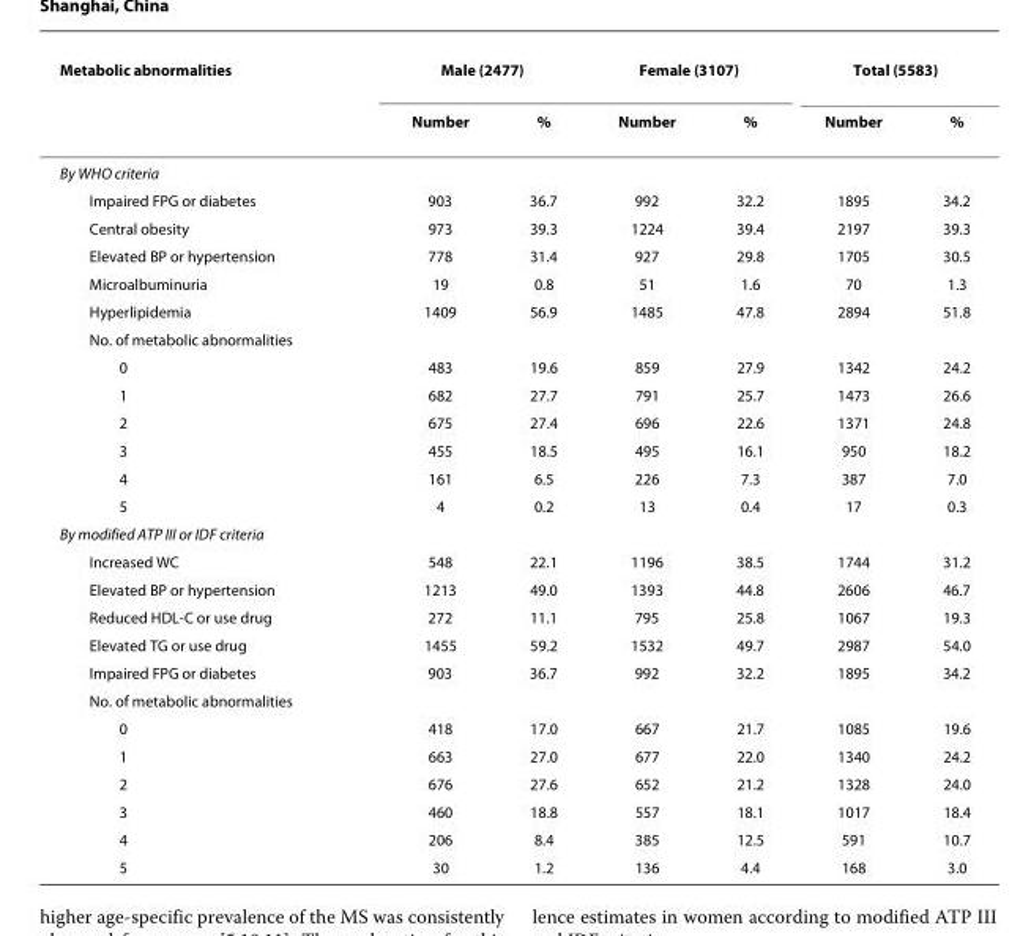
<table><thead><tr><td rowspan="2">Metabolic abnormalities</td><td colspan="2">Male (2477)</td><td colspan="2">Female (3107)</td><td colspan="2">Total (5583)</td></tr><tr><td>Number</td><td>%</td><td>Number</td><td>%</td><td>Number</td><td>%</td></tr></thead><tbody><tr><td colspan="7">By WHO criteria</td></tr><tr><td>Impaired FPG or diabetes</td><td>903</td><td>36.7</td><td>992</td><td>32.2</td><td>1895</td><td>34.2</td></tr><tr><td>Central obesity</td><td>973</td><td>39.3</td><td>1224</td><td>39.4</td><td>2197</td><td>39.3</td></tr><tr><td>Elevated BP or hypertension</td><td>778</td><td>31.4</td><td>927</td><td>29.8</td><td>1705</td><td>30.5</td></tr><tr><td>Microalbuminuria</td><td>19</td><td>0.8</td><td>51</td><td>1.6</td><td>70</td><td>1.3</td></tr><tr><td>Hyperlipidemia</td><td>1409</td><td>56.9</td><td>1485</td><td>47.8</td><td>2894</td><td>51.8</td></tr><tr><td colspan="7">No. of metabolic abnormalities</td></tr><tr><td>0</td><td>483</td><td>19.6</td><td>859</td><td>27.9</td><td>1342</td><td>24.2</td></tr><tr><td>1</td><td>682</td><td>27.7</td><td>791</td><td>25.7</td><td>1473</td><td>26.6</td></tr><tr><td>2</td><td>675</td><td>27.4</td><td>696</td><td>22.6</td><td>1371</td><td>24.8</td></tr><tr><td>3</td><td>455</td><td>18.5</td><td>495</td><td>16.1</td><td>950</td><td>18.2</td></tr><tr><td>4</td><td>161</td><td>6.5</td><td>226</td><td>7.3</td><td>387</td><td>7.0</td></tr><tr><td>5</td><td>4</td><td>0.2</td><td>13</td><td>0.4</td><td>17</td><td>0.3</td></tr><tr><td colspan="7">By modified ATP III or IDF criteria</td></tr><tr><td>Increased WC</td><td>548</td><td>22.1</td><td>1196</td><td>38.5</td><td>1744</td><td>31.2</td></tr><tr><td>Elevated BP or hypertension</td><td>1213</td><td>49.0</td><td>1393</td><td>44.8</td><td>2606</td><td>46.7</td></tr><tr><td>Reduced HDL-C or use drug</td><td>272</td><td>11.1</td><td>795</td><td>25.8</td><td>1067</td><td>19.3</td></tr><tr><td>Elevated TG or use drug</td><td>1455</td><td>59.2</td><td>1532</td><td>49.7</td><td>2987</td><td>54.0</td></tr><tr><td>Impaired FPG or diabetes</td><td>903</td><td>36.7</td><td>992</td><td>32.2</td><td>1895</td><td>34.2</td></tr><tr><td colspan="7">No. of metabolic abnormalities</td></tr><tr><td>0</td><td>418</td><td>17.0</td><td>667</td><td>21.7</td><td>1085</td><td>19.6</td></tr><tr><td>1</td><td>663</td><td>27.0</td><td>677</td><td>22.0</td><td>1340</td><td>24.2</td></tr><tr><td>2</td><td>676</td><td>27.6</td><td>652</td><td>21.2</td><td>1328</td><td>24.0</td></tr><tr><td>3</td><td>460</td><td>18.8</td><td>557</td><td>18.1</td><td>1017</td><td>18.4</td></tr><tr><td>4</td><td>206</td><td>8.4</td><td>385</td><td>12.5</td><td>591</td><td>10.7</td></tr><tr><td>5</td><td>30</td><td>1.2</td><td>136</td><td>4.4</td><td>168</td><td>3.0</td></tr></tbody></table>